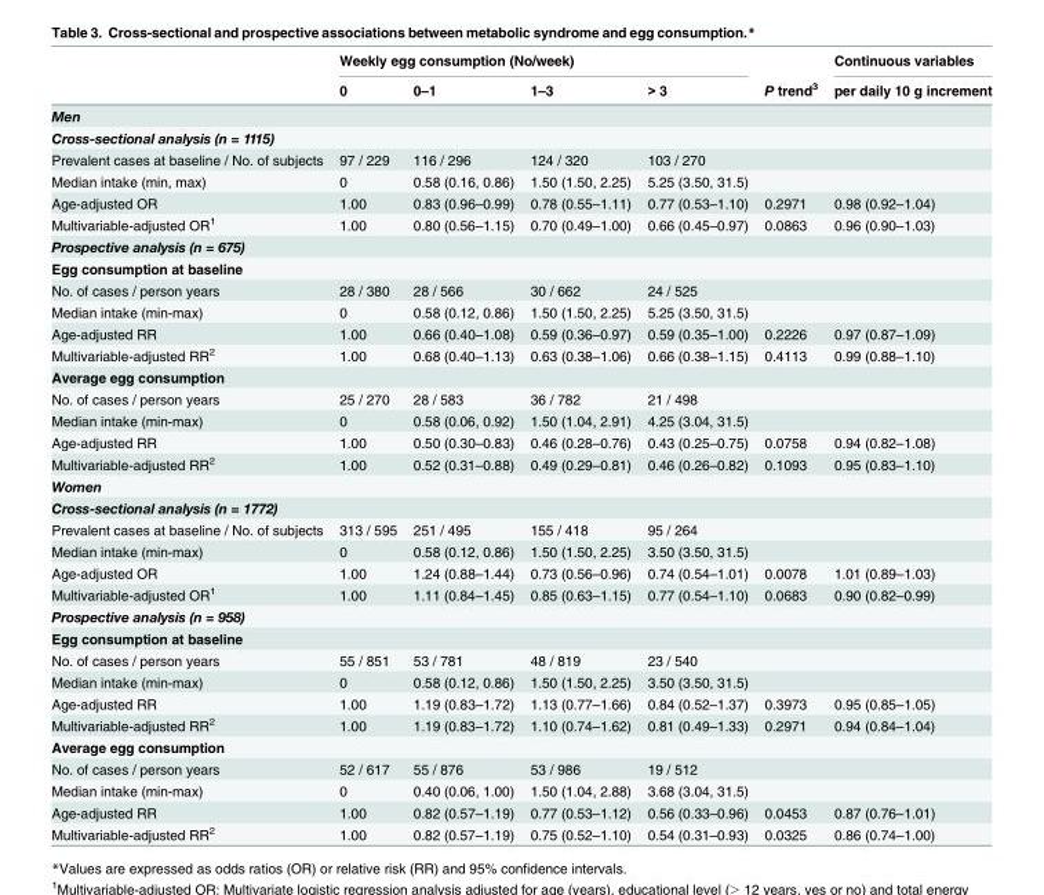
<table><thead><tr><td rowspan="2"></td><td colspan="4">Weekly egg consumption (No/week)</td><td rowspan="2">P trend<sup>3</sup></td><td rowspan="2">Continuous variables per daily 10 g increment</td></tr><tr><td>0</td><td>0–1</td><td>1–3</td><td>&gt; 3</td></tr></thead><tbody><tr><td colspan="7">Men</td></tr><tr><td colspan="7">Cross-sectional analysis (n = 1115)</td></tr><tr><td>Prevalent cases at baseline / No. of subjects</td><td>97 / 229</td><td>116 / 296</td><td>124 / 320</td><td>103 / 270</td><td></td><td></td></tr><tr><td>Median intake (min, max)</td><td>0</td><td>0.58 (0.16, 0.86)</td><td>1.50 (1.50, 2.25)</td><td>5.25 (3.50, 31.5)</td><td></td><td></td></tr><tr><td>Age-adjusted OR</td><td>1.00</td><td>0.83 (0.96–0.99)</td><td>0.78 (0.55–1.11)</td><td>0.77 (0.53–1.10)</td><td>0.2971</td><td>0.98 (0.92–1.04)</td></tr><tr><td>Multivariable-adjusted OR<sup>1</sup></td><td>1.00</td><td>0.80 (0.56–1.15)</td><td>0.70 (0.49–1.00)</td><td>0.66 (0.45–0.97)</td><td>0.0863</td><td>0.96 (0.90–1.03)</td></tr><tr><td colspan="7">Prospective analysis (n = 675)</td></tr><tr><td colspan="7">Egg consumption at baseline</td></tr><tr><td>No. of cases / person years</td><td>28 / 380</td><td>28 / 566</td><td>30 / 662</td><td>24 / 525</td><td></td><td></td></tr><tr><td>Median intake (min-max)</td><td>0</td><td>0.58 (0.12, 0.86)</td><td>1.50 (1.50, 2.25)</td><td>5.25 (3.50, 31.5)</td><td></td><td></td></tr><tr><td>Age-adjusted RR</td><td>1.00</td><td>0.66 (0.40–1.08)</td><td>0.59 (0.36–0.97)</td><td>0.59 (0.35–1.00)</td><td>0.2226</td><td>0.97 (0.87–1.09)</td></tr><tr><td>Multivariable-adjusted RR<sup>2</sup></td><td>1.00</td><td>0.68 (0.40–1.13)</td><td>0.63 (0.38–1.06)</td><td>0.66 (0.38–1.15)</td><td>0.4113</td><td>0.99 (0.88–1.10)</td></tr><tr><td colspan="7">Average egg consumption</td></tr><tr><td>No. of cases / person years</td><td>25 / 270</td><td>28 / 583</td><td>36 / 782</td><td>21 / 498</td><td></td><td></td></tr><tr><td>Median intake (min-max)</td><td>0</td><td>0.58 (0.06, 0.92)</td><td>1.50 (1.04, 2.91)</td><td>4.25 (3.04, 31.5)</td><td></td><td></td></tr><tr><td>Age-adjusted RR</td><td>1.00</td><td>0.50 (0.30–0.83)</td><td>0.46 (0.28–0.76)</td><td>0.43 (0.25–0.75)</td><td>0.0758</td><td>0.94 (0.82–1.08)</td></tr><tr><td>Multivariable-adjusted RR<sup>2</sup></td><td>1.00</td><td>0.52 (0.31–0.88)</td><td>0.49 (0.29–0.81)</td><td>0.46 (0.26–0.82)</td><td>0.1093</td><td>0.95 (0.83–1.10)</td></tr><tr><td colspan="7">Women</td></tr><tr><td colspan="7">Cross-sectional analysis (n = 1772)</td></tr><tr><td>Prevalent cases at baseline / No. of subjects</td><td>313 / 595</td><td>251 / 495</td><td>155 / 418</td><td>95 / 264</td><td></td><td></td></tr><tr><td>Median intake (min-max)</td><td>0</td><td>0.58 (0.12, 0.86)</td><td>1.50 (1.50, 2.25)</td><td>3.50 (3.50, 31.5)</td><td></td><td></td></tr><tr><td>Age-adjusted OR</td><td>1.00</td><td>1.24 (0.88–1.44)</td><td>0.73 (0.56–0.96)</td><td>0.74 (0.54–1.01)</td><td>0.0078</td><td>1.01 (0.89–1.03)</td></tr><tr><td>Multivariable-adjusted OR<sup>1</sup></td><td>1.00</td><td>1.11 (0.84–1.45)</td><td>0.85 (0.63–1.15)</td><td>0.77 (0.54–1.10)</td><td>0.0683</td><td>0.90 (0.82–0.99)</td></tr><tr><td colspan="7">Prospective analysis (n = 958)</td></tr><tr><td colspan="7">Egg consumption at baseline</td></tr><tr><td>No. of cases / person years</td><td>55 / 851</td><td>53 / 781</td><td>48 / 819</td><td>23 / 540</td><td></td><td></td></tr><tr><td>Median intake (min-max)</td><td>0</td><td>0.58 (0.12, 0.86)</td><td>1.50 (1.50, 2.25)</td><td>3.50 (3.50, 31.5)</td><td></td><td></td></tr><tr><td>Age-adjusted RR</td><td>1.00</td><td>1.19 (0.83–1.72)</td><td>1.13 (0.77–1.66)</td><td>0.84 (0.52–1.37)</td><td>0.3973</td><td>0.95 (0.85–1.05)</td></tr><tr><td>Multivariable-adjusted RR<sup>2</sup></td><td>1.00</td><td>1.19 (0.83–1.72)</td><td>1.10 (0.74–1.62)</td><td>0.81 (0.49–1.33)</td><td>0.2971</td><td>0.94 (0.84–1.04)</td></tr><tr><td colspan="7">Average egg consumption</td></tr><tr><td>No. of cases / person years</td><td>52 / 617</td><td>55 / 876</td><td>53 / 986</td><td>19 / 512</td><td></td><td></td></tr><tr><td>Median intake (min-max)</td><td>0</td><td>0.40 (0.06, 1.00)</td><td>1.50 (1.04, 2.88)</td><td>3.68 (3.04, 31.5)</td><td></td><td></td></tr><tr><td>Age-adjusted RR</td><td>1.00</td><td>0.82 (0.57–1.19)</td><td>0.77 (0.53–1.12)</td><td>0.56 (0.33–0.96)</td><td>0.0453</td><td>0.87 (0.76–1.01)</td></tr><tr><td>Multivariable-adjusted RR<sup>2</sup></td><td>1.00</td><td>0.82 (0.57–1.19)</td><td>0.75 (0.52–1.10)</td><td>0.54 (0.31–0.93)</td><td>0.0325</td><td>0.86 (0.74–1.00)</td></tr></tbody></table>